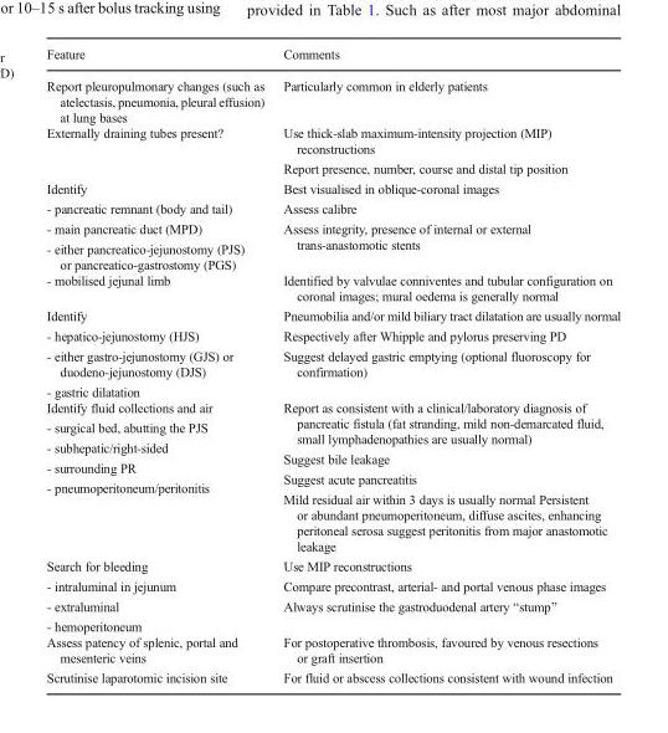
<table><thead><tr><td>Feature</td><td>Comments</td></tr></thead><tbody><tr><td>Report pleuropulmonary changes (such as atelectasis, pneumonia, pleural effusion) at lung bases</td><td>Particularly common in elderly patients</td></tr><tr><td>Externally draining tubes present?</td><td>Use thick-slab maximum-intensity projection (MIP) reconstructions Report presence, number, course and distal tip position</td></tr><tr><td>Identify - pancreatic remnant (body and tail) - main pancreatic duct (MPD) - either pancreatico-jejunostomy (PJS) or pancreatico-gastrostomy (PGS)</td><td>Best visualised in oblique-coronal images Assess calibre Assess integrity, presence of internal or external trans-anastomotic stents</td></tr><tr><td>- mobilised jejunal limb</td><td>Identified by valvulae conniventes and tubular configuration on coronal images; mural oedema is generally normal</td></tr><tr><td>Identify - hepatico-jejunostomy (HJS) - either gastro-jejunostomy (GJS) or duodeno-jejunostomy (DJS) - gastric dilatation</td><td>Pneumobilia and/or mild biliary tract dilatation are usually normal Respectively after Whipple and pylorus preserving PD Suggest delayed gastric emptying (optional fluoroscopy for confirmation)</td></tr><tr><td>Identify fluid collections and air - surgical bed, abutting the PJS - subhepatic/right-sided - surrounding PR - pneumoperitoneum/peritonitis</td><td>Report as consistent with a clinical/laboratory diagnosis of pancreatic fistula (fat stranding, mild non-demarcated fluid, small lymphadenopathies are usually normal) Suggest bile leakage Suggest acute pancreatitis Mild residual air within 3 days is usually normal Persistent or abundant pneumoperitoneum, diffuse ascites, enhancing peritoneal serosa suggest peritonitis from major anastomotic leakage</td></tr><tr><td>Search for bleeding - intraluminal in jejunum - extraluminal - hemoperitoneum</td><td>Use MIP reconstructions Compare precontrast, arterial- and portal venous phase images Always scrutinise the gastroduodenal artery “stump”</td></tr><tr><td>Assess patency of splenic, portal and mesenteric veins</td><td>For postoperative thrombosis, favoured by venous resections or graft insertion</td></tr><tr><td>Scrutinise laparotomic incision site</td><td>For fluid or abscess collections consistent with wound infection</td></tr></tbody></table>